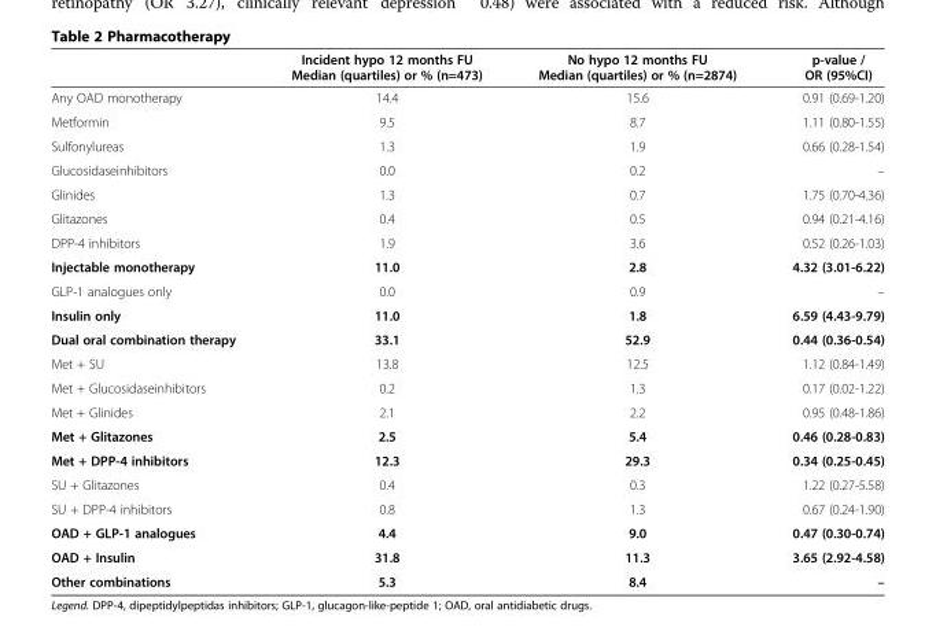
<table><thead><tr><td></td><td>Incident hypo 12 months FU Median (quartiles) or % (n=473)</td><td>No hypo 12 months FU Median (quartiles) or % (n=2874)</td><td>p-value / OR (95%CI)</td></tr></thead><tbody><tr><td>Any OAD monotherapy</td><td>14.4</td><td>15.6</td><td>0.91 (0.69-1.20)</td></tr><tr><td>Metformin</td><td>9.5</td><td>8.7</td><td>1.11 (0.80-1.55)</td></tr><tr><td>Sulfonylureas</td><td>1.3</td><td>1.9</td><td>0.66 (0.28-1.54)</td></tr><tr><td>Glucosidaseinhibitors</td><td>0.0</td><td>0.2</td><td>–</td></tr><tr><td>Glinides</td><td>1.3</td><td>0.7</td><td>1.75 (0.70-4.36)</td></tr><tr><td>Glitazones</td><td>0.4</td><td>0.5</td><td>0.94 (0.21-4.16)</td></tr><tr><td>DPP-4 inhibitors</td><td>1.9</td><td>3.6</td><td>0.52 (0.26-1.03)</td></tr><tr><td>Injectable monotherapy</td><td>11.0</td><td>2.8</td><td>4.32 (3.01-6.22)</td></tr><tr><td>GLP-1 analogues only</td><td>0.0</td><td>0.9</td><td>–</td></tr><tr><td>Insulin only</td><td>11.0</td><td>1.8</td><td>6.59 (4.43-9.79)</td></tr><tr><td>Dual oral combination therapy</td><td>33.1</td><td>52.9</td><td>0.44 (0.36-0.54)</td></tr><tr><td>Met + SU</td><td>13.8</td><td>12.5</td><td>1.12 (0.84-1.49)</td></tr><tr><td>Met + Glucosidaseinhibitors</td><td>0.2</td><td>1.3</td><td>0.17 (0.02-1.22)</td></tr><tr><td>Met + Glinides</td><td>2.1</td><td>2.2</td><td>0.95 (0.48-1.86)</td></tr><tr><td>Met + Glitazones</td><td>2.5</td><td>5.4</td><td>0.46 (0.28-0.83)</td></tr><tr><td>Met + DPP-4 inhibitors</td><td>12.3</td><td>29.3</td><td>0.34 (0.25-0.45)</td></tr><tr><td>SU + Glitazones</td><td>0.4</td><td>0.3</td><td>1.22 (0.27-5.58)</td></tr><tr><td>SU + DPP-4 inhibitors</td><td>0.8</td><td>1.3</td><td>0.67 (0.24-1.90)</td></tr><tr><td>OAD + GLP-1 analogues</td><td>4.4</td><td>9.0</td><td>0.47 (0.30-0.74)</td></tr><tr><td>OAD + Insulin</td><td>31.8</td><td>11.3</td><td>3.65 (2.92-4.58)</td></tr><tr><td>Other combinations</td><td>5.3</td><td>8.4</td><td>–</td></tr></tbody></table>